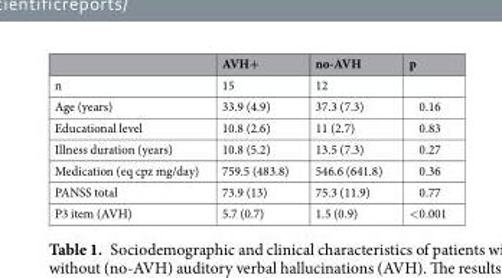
<table><thead><tr><td></td><td>AVH+</td><td>no-AVH</td><td>p</td></tr></thead><tbody><tr><td>n</td><td>15</td><td>12</td><td></td></tr><tr><td>Age (years)</td><td>33.9 (4.9)</td><td>37.3 (7.3)</td><td>0.16</td></tr><tr><td>Educational level</td><td>10.8 (2.6)</td><td>11 (2.7)</td><td>0.83</td></tr><tr><td>Illness duration (years)</td><td>10.8 (5.2)</td><td>13.5 (7.3)</td><td>0.27</td></tr><tr><td>Medication (eq cpz mg/day)</td><td>759.5 (483.8)</td><td>546.6 (641.8)</td><td>0.36</td></tr><tr><td>PANSS total</td><td>73.9 (13)</td><td>75.3 (11.9)</td><td>0.77</td></tr><tr><td>P3 item (AVH)</td><td>5.7 (0.7)</td><td>1.5 (0.9)</td><td>&lt;0.001</td></tr></tbody></table>